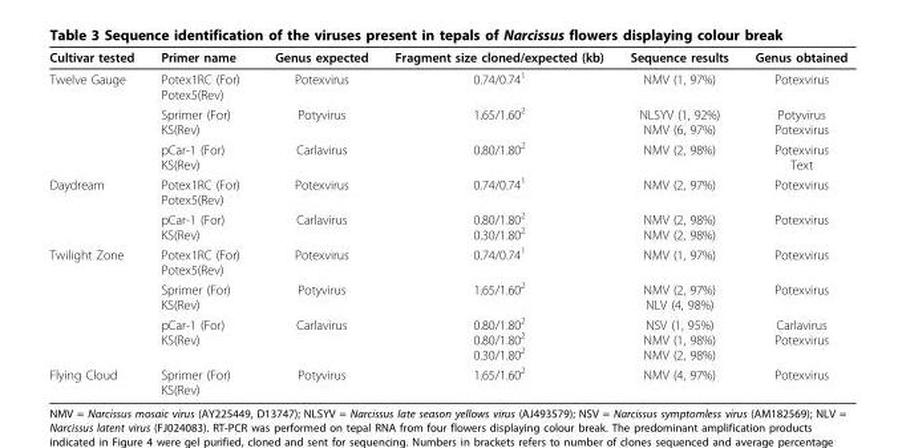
<table><thead><tr><td>Cultivar tested</td><td>Primer name</td><td>Genus expected</td><td>Fragment size cloned/expected (kb)</td><td>Sequence results</td><td>Genus obtained</td></tr></thead><tbody><tr><td rowspan="3">Twelve Gauge</td><td>Potex1RC (For) Potex5(Rev)</td><td>Potexvirus</td><td>0.74/0.74<sup>1</sup></td><td>NMV (1, 97%)</td><td>Potexvirus</td></tr><tr><td>Sprimer (For) KS(Rev)</td><td>Potyvirus</td><td>1.65/1.60<sup>2</sup></td><td>NLSYV (1, 92%) NMV (6, 97%)</td><td>Potyvirus Potexvirus</td></tr><tr><td>pCar-1 (For) KS(Rev)</td><td>Carlavirus</td><td>0.80/1.80<sup>2</sup></td><td>NMV (2, 98%)</td><td>Potexvirus Text</td></tr><tr><td rowspan="2">Daydream</td><td>Potex1RC (For) Potex5(Rev)</td><td>Potexvirus</td><td>0.74/0.74<sup>1</sup></td><td>NMV (2, 97%)</td><td>Potexvirus</td></tr><tr><td>pCar-1 (For) KS(Rev)</td><td>Carlavirus</td><td>0.80/1.80<sup>2</sup> 0.30/1.80<sup>2</sup></td><td>NMV (2, 98%) NMV (2, 98%)</td><td>Potexvirus</td></tr><tr><td rowspan="3">Twilight Zone</td><td>Potex1RC (For) Potex5(Rev)</td><td>Potexvirus</td><td>0.74/0.74<sup>1</sup></td><td>NMV (1, 97%)</td><td>Potexvirus</td></tr><tr><td>Sprimer (For) KS(Rev)</td><td>Potyvirus</td><td>1.65/1.60<sup>2</sup></td><td>NMV (2, 97%) NLV (4, 98%)</td><td>Potexvirus</td></tr><tr><td>pCar-1 (For) KS(Rev)</td><td>Carlavirus</td><td>0.80/1.80<sup>2</sup> 0.80/1.80<sup>2</sup> 0.30/1.80<sup>2</sup></td><td>NSV (1, 95%) NMV (1, 98%) NMV (2, 98%)</td><td>Carlavirus Potexvirus</td></tr><tr><td>Flying Cloud</td><td>Sprimer (For) KS(Rev)</td><td>Potyvirus</td><td>1.65/1.60<sup>2</sup></td><td>NMV (4, 97%)</td><td>Potexvirus</td></tr></tbody></table>